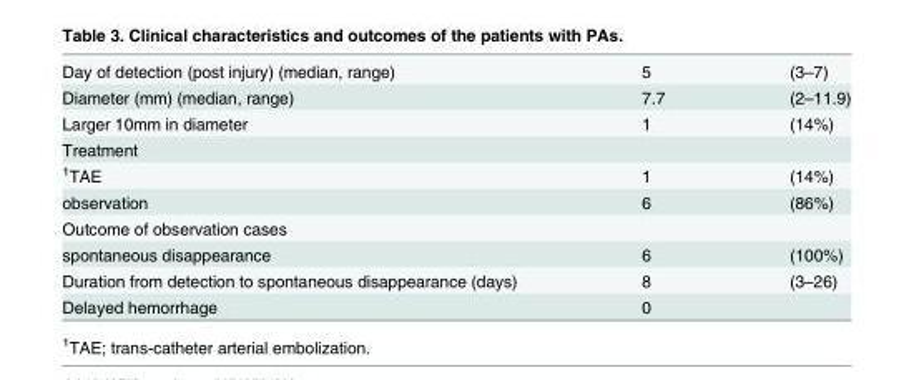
<table><tbody><tr><td>Day of detection (post injury) (median, range)</td><td>5</td><td>(3–7)</td></tr><tr><td>Diameter (mm) (median, range)</td><td>7.7</td><td>(2–11.9)</td></tr><tr><td>Larger 10mm in diameter</td><td>1</td><td>(14%)</td></tr><tr><td colspan="3">Treatment</td></tr><tr><td><sup>1</sup>TAE</td><td>1</td><td>(14%)</td></tr><tr><td>observation</td><td>6</td><td>(86%)</td></tr><tr><td colspan="3">Outcome of observation cases</td></tr><tr><td>spontaneous disappearance</td><td>6</td><td>(100%)</td></tr><tr><td>Duration from detection to spontaneous disappearance (days)</td><td>8</td><td>(3–26)</td></tr><tr><td>Delayed hemorrhage</td><td>0</td><td></td></tr></tbody></table>